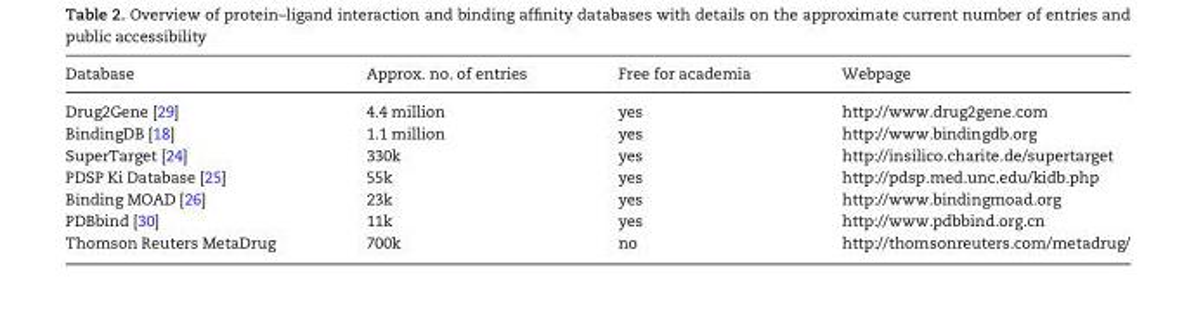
<table><thead><tr><td>Database</td><td>Approx. no. of entries</td><td>Free for academia</td><td>Webpage</td></tr></thead><tbody><tr><td>Drug2Gene [29]</td><td>4.4 million</td><td>yes</td><td>http://www.drug2gene.com</td></tr><tr><td>BindingDB [18]</td><td>1.1 million</td><td>yes</td><td>http://www.bindingdb.org</td></tr><tr><td>SuperTarget [24]</td><td>330k</td><td>yes</td><td>http://insilico.charite.de/supertarget</td></tr><tr><td>PDSP Ki Database [25]</td><td>55k</td><td>yes</td><td>http://pdsp.med.unc.edu/kidb.php</td></tr><tr><td>Binding MOAD [26]</td><td>23k</td><td>yes</td><td>http://www.bindingmoad.org</td></tr><tr><td>PDBbind [30]</td><td>11k</td><td>yes</td><td>http://www.pdbbind.org.cn</td></tr><tr><td>Thomson Reuters MetaDrug</td><td>700k</td><td>no</td><td>http://thomsonreuters.com/metadrug/</td></tr></tbody></table>